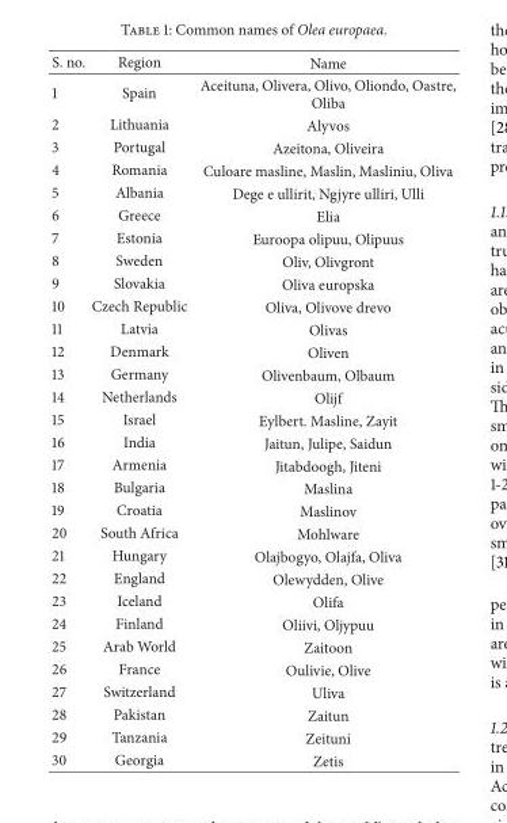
<table><thead><tr><td>S. no.</td><td>Region</td><td>Name</td></tr></thead><tbody><tr><td>1</td><td>Spain</td><td>Aceituna, Olivera, Olivo, Oliondo, Oastre, Oliba</td></tr><tr><td>2</td><td>Lithuania</td><td>Alyvos</td></tr><tr><td>3</td><td>Portugal</td><td>Azeitona, Oliveira</td></tr><tr><td>4</td><td>Romania</td><td>Culoare masline, Maslin, Masliniu, Oliva</td></tr><tr><td>5</td><td>Albania</td><td>Dege e ullirit, Ngjyre ulliri, Ulli</td></tr><tr><td>6</td><td>Greece</td><td>Elia</td></tr><tr><td>7</td><td>Estonia</td><td>Euroopa olipuu, Olipuus</td></tr><tr><td>8</td><td>Sweden</td><td>Oliv, Olivgront</td></tr><tr><td>9</td><td>Slovakia</td><td>Oliva europska</td></tr><tr><td>10</td><td>Czech Republic</td><td>Oliva, Olivove drevo</td></tr><tr><td>11</td><td>Latvia</td><td>Olivas</td></tr><tr><td>12</td><td>Denmark</td><td>Oliven</td></tr><tr><td>13</td><td>Germany</td><td>Olivenbaum, Olbaum</td></tr><tr><td>14</td><td>Netherlands</td><td>Olijf</td></tr><tr><td>15</td><td>Israel</td><td>Eylbert. Masline, Zayit</td></tr><tr><td>16</td><td>India</td><td>Jaitun, Julipe, Saidun</td></tr><tr><td>17</td><td>Armenia</td><td>Jitabdoogh, Jiteni</td></tr><tr><td>18</td><td>Bulgaria</td><td>Maslina</td></tr><tr><td>19</td><td>Croatia</td><td>Maslinov</td></tr><tr><td>20</td><td>South Africa</td><td>Mohlware</td></tr><tr><td>21</td><td>Hungary</td><td>Olajbogyo, Olajfa, Oliva</td></tr><tr><td>22</td><td>England</td><td>Olewydden, Olive</td></tr><tr><td>23</td><td>Iceland</td><td>Olifa</td></tr><tr><td>24</td><td>Finland</td><td>Oliivi, Oljypuu</td></tr><tr><td>25</td><td>Arab World</td><td>Zaitoon</td></tr><tr><td>26</td><td>France</td><td>Oulivie, Olive</td></tr><tr><td>27</td><td>Switzerland</td><td>Uliva</td></tr><tr><td>28</td><td>Pakistan</td><td>Zaitun</td></tr><tr><td>29</td><td>Tanzania</td><td>Zeituni</td></tr><tr><td>30</td><td>Georgia</td><td>Zetis</td></tr></tbody></table>